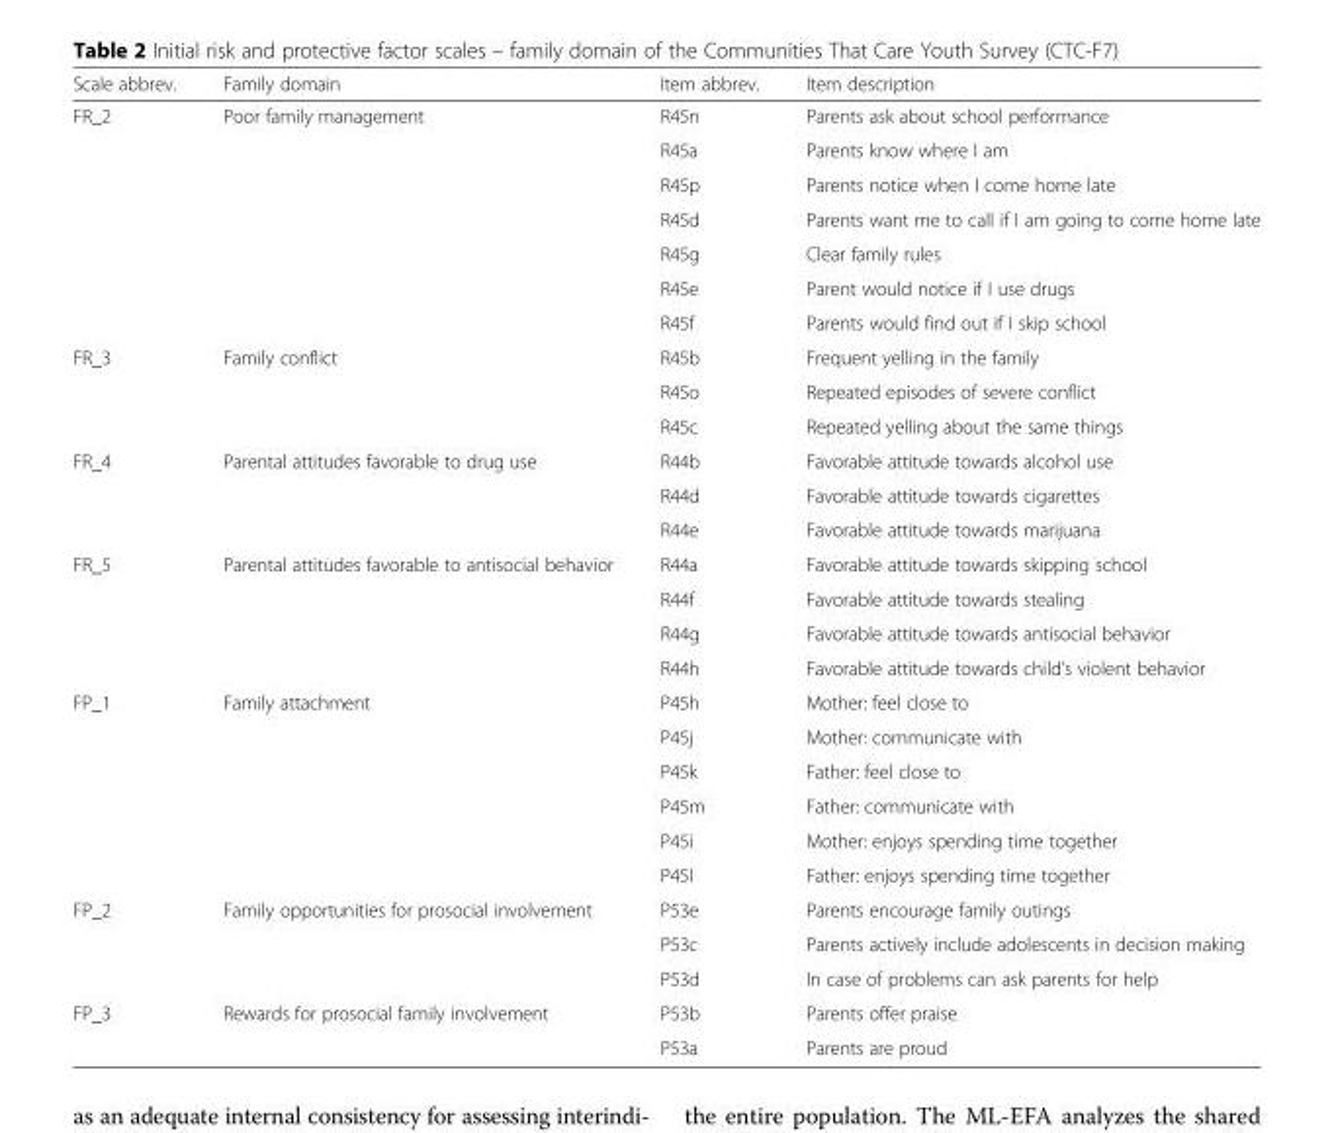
<table><thead><tr><td>Scale abbrev.</td><td>Family domain</td><td>Item abbrev.</td><td>Item description</td></tr></thead><tbody><tr><td rowspan="7">FR_2</td><td rowspan="7">Poor family management</td><td>R45n</td><td>Parents ask about school performance</td></tr><tr><td>R45a</td><td>Parents know where I am</td></tr><tr><td>R45p</td><td>Parents notice when I come home late</td></tr><tr><td>R45d</td><td>Parents want me to call if I am going to come home late</td></tr><tr><td>R45g</td><td>Clear family rules</td></tr><tr><td>R45e</td><td>Parent would notice if I use drugs</td></tr><tr><td>R45f</td><td>Parents would find out if I skip school</td></tr><tr><td rowspan="3">FR_3</td><td rowspan="3">Family conflict</td><td>R45b</td><td>Frequent yelling in the family</td></tr><tr><td>R45o</td><td>Repeated episodes of severe conflict</td></tr><tr><td>R45c</td><td>Repeated yelling about the same things</td></tr><tr><td rowspan="3">FR_4</td><td rowspan="3">Parental attitudes favorable to drug use</td><td>R44b</td><td>Favorable attitude towards alcohol use</td></tr><tr><td>R44d</td><td>Favorable attitude towards cigarettes</td></tr><tr><td>R44e</td><td>Favorable attitude towards marijuana</td></tr><tr><td rowspan="4">FR_5</td><td rowspan="4">Parental attitudes favorable to antisocial behavior</td><td>R44a</td><td>Favorable attitude towards skipping school</td></tr><tr><td>R44f</td><td>Favorable attitude towards stealing</td></tr><tr><td>R44g</td><td>Favorable attitude towards antisocial behavior</td></tr><tr><td>R44h</td><td>Favorable attitude towards child’s violent behavior</td></tr><tr><td rowspan="6">FP_1</td><td rowspan="6">Family attachment</td><td>P45h</td><td>Mother: feel close to</td></tr><tr><td>P45j</td><td>Mother: communicate with</td></tr><tr><td>P45k</td><td>Father: feel close to</td></tr><tr><td>P45m</td><td>Father: communicate with</td></tr><tr><td>P45i</td><td>Mother: enjoys spending time together</td></tr><tr><td>P45l</td><td>Father: enjoys spending time together</td></tr><tr><td rowspan="3">FP_2</td><td rowspan="3">Family opportunities for prosocial involvement</td><td>P53e</td><td>Parents encourage family outings</td></tr><tr><td>P53c</td><td>Parents actively include adolescents in decision making</td></tr><tr><td>P53d</td><td>In case of problems can ask parents for help</td></tr><tr><td rowspan="2">FP_3</td><td rowspan="2">Rewards for prosocial family involvement</td><td>P53b</td><td>Parents offer praise</td></tr><tr><td>P53a</td><td>Parents are proud</td></tr></tbody></table>